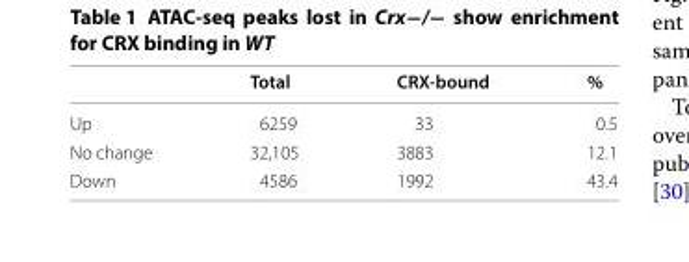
<table><thead><tr><td></td><td>Total</td><td>CRX‑bound</td><td>%</td></tr></thead><tbody><tr><td>Up</td><td>6259</td><td>33</td><td>0.5</td></tr><tr><td>No change</td><td>32,105</td><td>3883</td><td>12.1</td></tr><tr><td>Down</td><td>4586</td><td>1992</td><td>43.4</td></tr></tbody></table>